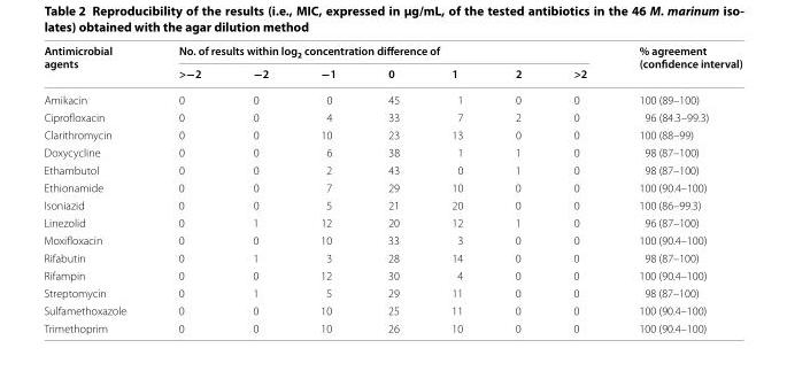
<table><thead><tr><td rowspan="2">Antimicrobial agents</td><td colspan="7">No. of results within log<sub>2</sub> concentration difference of</td><td rowspan="2">% agreement (confidence interval)</td></tr><tr><td>&gt;−2</td><td>−2</td><td>−1</td><td>0</td><td>1</td><td>2</td><td>&gt;2</td></tr></thead><tbody><tr><td>Amikacin</td><td>0</td><td>0</td><td>0</td><td>45</td><td>1</td><td>0</td><td>0</td><td>100 (89–100)</td></tr><tr><td>Ciprofloxacin</td><td>0</td><td>0</td><td>4</td><td>33</td><td>7</td><td>2</td><td>0</td><td>96 (84.3–99.3)</td></tr><tr><td>Clarithromycin</td><td>0</td><td>0</td><td>10</td><td>23</td><td>13</td><td>0</td><td>0</td><td>100 (88–99)</td></tr><tr><td>Doxycycline</td><td>0</td><td>0</td><td>6</td><td>38</td><td>1</td><td>1</td><td>0</td><td>98 (87–100)</td></tr><tr><td>Ethambutol</td><td>0</td><td>0</td><td>2</td><td>43</td><td>0</td><td>1</td><td>0</td><td>98 (87–100)</td></tr><tr><td>Ethionamide</td><td>0</td><td>0</td><td>7</td><td>29</td><td>10</td><td>0</td><td>0</td><td>100 (90.4–100)</td></tr><tr><td>Isoniazid</td><td>0</td><td>0</td><td>5</td><td>21</td><td>20</td><td>0</td><td>0</td><td>100 (86–99.3)</td></tr><tr><td>Linezolid</td><td>0</td><td>1</td><td>12</td><td>20</td><td>12</td><td>1</td><td>0</td><td>96 (87–100)</td></tr><tr><td>Moxifloxacin</td><td>0</td><td>0</td><td>10</td><td>33</td><td>3</td><td>0</td><td>0</td><td>100 (90.4–100)</td></tr><tr><td>Rifabutin</td><td>0</td><td>1</td><td>3</td><td>28</td><td>14</td><td>0</td><td>0</td><td>98 (87–100)</td></tr><tr><td>Rifampin</td><td>0</td><td>0</td><td>12</td><td>30</td><td>4</td><td>0</td><td>0</td><td>100 (90.4–100)</td></tr><tr><td>Streptomycin</td><td>0</td><td>1</td><td>5</td><td>29</td><td>11</td><td>0</td><td>0</td><td>98 (87–100)</td></tr><tr><td>Sulfamethoxazole</td><td>0</td><td>0</td><td>10</td><td>25</td><td>11</td><td>0</td><td>0</td><td>100 (90.4–100)</td></tr><tr><td>Trimethoprim</td><td>0</td><td>0</td><td>10</td><td>26</td><td>10</td><td>0</td><td>0</td><td>100 (90.4–100)</td></tr></tbody></table>